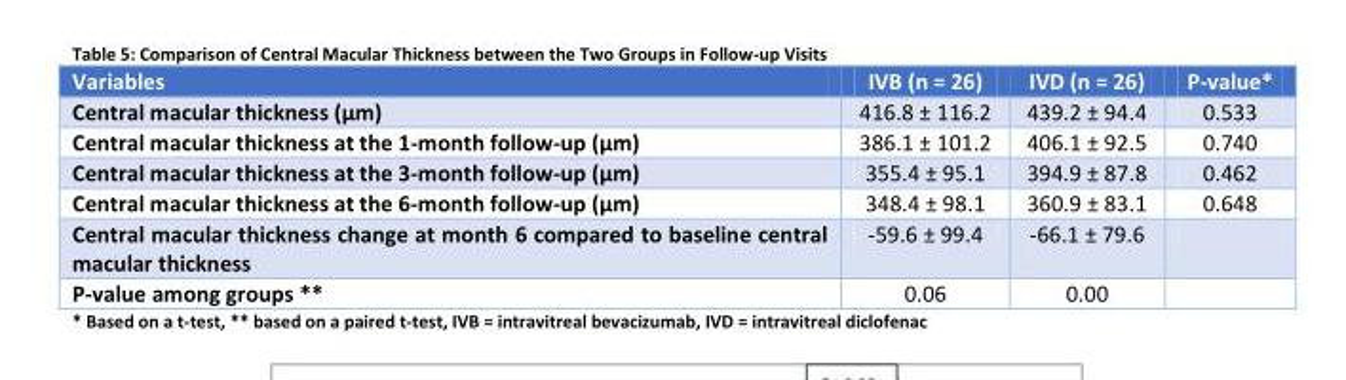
<table><thead><tr><td>Variables</td><td>IVB (n = 26)</td><td>IVD (n = 26)</td><td>P-value*</td></tr></thead><tbody><tr><td>Central macular thickness (µm)</td><td>416.8 ± 116.2</td><td>439.2 ± 94.4</td><td>0.533</td></tr><tr><td>Central macular thickness at the 1-month follow-up (µm)</td><td>386.1 ± 101.2</td><td>406.1 ± 92.5</td><td>0.740</td></tr><tr><td>Central macular thickness at the 3-month follow-up (µm)</td><td>355.4 ± 95.1</td><td>394.9 ± 87.8</td><td>0.462</td></tr><tr><td>Central macular thickness at the 6-month follow-up (µm)</td><td>348.4 ± 98.1</td><td>360.9 ± 83.1</td><td>0.648</td></tr><tr><td>Central macular thickness change at month 6 compared to baseline central macular thickness</td><td>-59.6 ± 99.4</td><td>-66.1 ± 79.6</td><td></td></tr><tr><td>P-value among groups **</td><td>0.06</td><td>0.00</td><td></td></tr></tbody></table>